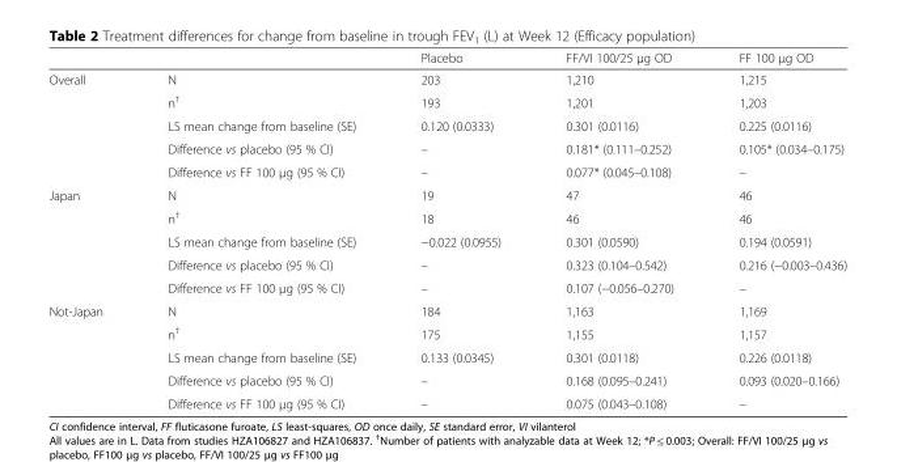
<table><thead><tr><td></td><td></td><td>Placebo</td><td>FF/VI 100/25 μg OD</td><td>FF 100 μg OD</td></tr></thead><tbody><tr><td rowspan="5">Overall</td><td>N</td><td>203</td><td>1,210</td><td>1,215</td></tr><tr><td>n<sup>†</sup></td><td>193</td><td>1,201</td><td>1,203</td></tr><tr><td>LS mean change from baseline (SE)</td><td>0.120 (0.0333)</td><td>0.301 (0.0116)</td><td>0.225 (0.0116)</td></tr><tr><td>Difference vs placebo (95 % CI)</td><td>–</td><td>0.181* (0.111–0.252)</td><td>0.105* (0.034–0.175)</td></tr><tr><td>Difference vs FF 100 μg (95 % CI)</td><td>–</td><td>0.077* (0.045–0.108)</td><td>–</td></tr><tr><td rowspan="5">Japan</td><td>N</td><td>19</td><td>47</td><td>46</td></tr><tr><td>n<sup>†</sup></td><td>18</td><td>46</td><td>46</td></tr><tr><td>LS mean change from baseline (SE)</td><td>−0.022 (0.0955)</td><td>0.301 (0.0590)</td><td>0.194 (0.0591)</td></tr><tr><td>Difference vs placebo (95 % CI)</td><td>–</td><td>0.323 (0.104–0.542)</td><td>0.216 (−0.003–0.436)</td></tr><tr><td>Difference vs FF 100 μg (95 % CI)</td><td>–</td><td>0.107 (−0.056–0.270)</td><td>–</td></tr><tr><td rowspan="5">Not-Japan</td><td>N</td><td>184</td><td>1,163</td><td>1,169</td></tr><tr><td>n<sup>†</sup></td><td>175</td><td>1,155</td><td>1,157</td></tr><tr><td>LS mean change from baseline (SE)</td><td>0.133 (0.0345)</td><td>0.301 (0.0118)</td><td>0.226 (0.0118)</td></tr><tr><td>Difference vs placebo (95 % CI)</td><td>–</td><td>0.168 (0.095–0.241)</td><td>0.093 (0.020–0.166)</td></tr><tr><td>Difference vs FF 100 μg (95 % CI)</td><td>–</td><td>0.075 (0.043–0.108)</td><td>–</td></tr></tbody></table>